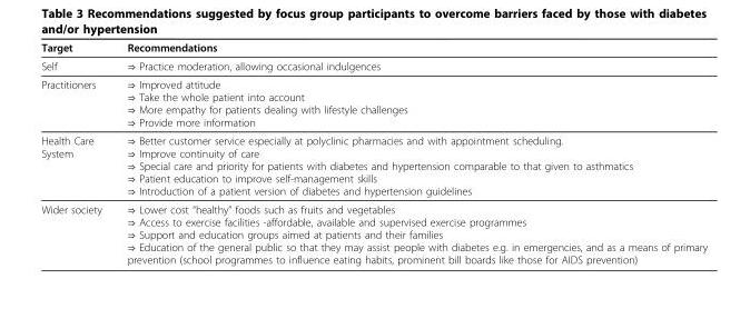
<table><thead><tr><td>Target</td><td>Recommendations</td></tr></thead><tbody><tr><td>Self</td><td>⇒ Practice moderation, allowing occasional indulgences</td></tr><tr><td>Practitioners</td><td>⇒ Improved attitude ⇒ Take the whole patient into account ⇒ More empathy for patients dealing with lifestyle challenges ⇒ Provide more information</td></tr><tr><td>Health Care System</td><td>⇒ Better customer service especially at polyclinic pharmacies and with appointment scheduling. ⇒ Improve continuity of care ⇒ Special care and priority for patients with diabetes and hypertension comparable to that given to asthmatics ⇒ Patient education to improve self-management skills ⇒ Introduction of a patient version of diabetes and hypertension guidelines</td></tr><tr><td>Wider society</td><td>⇒ Lower cost “healthy” foods such as fruits and vegetables ⇒ Access to exercise facilities -affordable, available and supervised exercise programmes ⇒ Support and education groups aimed at patients and their families ⇒ Education of the general public so that they may assist people with diabetes e.g. in emergencies, and as a means of primary prevention (school programmes to influence eating habits, prominent bill boards like those for AIDS prevention)</td></tr></tbody></table>